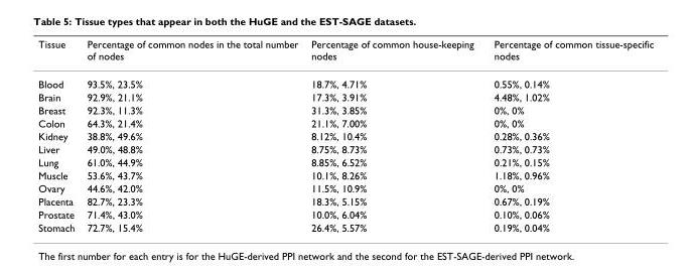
<table><thead><tr><td>Tissue</td><td>Percentage of common nodes in the total number of nodes</td><td>Percentage of common house-keeping nodes</td><td>Percentage of common tissue-specific nodes</td></tr></thead><tbody><tr><td>Blood</td><td>93.5%, 23.5%</td><td>18.7%, 4.71%</td><td>0.55%, 0.14%</td></tr><tr><td>Brain</td><td>92.9%, 21.1%</td><td>17.3%, 3.91%</td><td>4.48%, 1.02%</td></tr><tr><td>Breast</td><td>92.3%, 11.3%</td><td>31.3%, 3.85%</td><td>0%, 0%</td></tr><tr><td>Colon</td><td>64.3%, 21.4%</td><td>21.1%, 7.00%</td><td>0%, 0%</td></tr><tr><td>Kidney</td><td>38.8%, 49.6%</td><td>8.12%, 10.4%</td><td>0.28%, 0.36%</td></tr><tr><td>Liver</td><td>49.0%, 48.8%</td><td>8.75%, 8.73%</td><td>0.73%, 0.73%</td></tr><tr><td>Lung</td><td>61.0%, 44.9%</td><td>8.85%, 6.52%</td><td>0.21%, 0.15%</td></tr><tr><td>Muscle</td><td>53.6%, 43.7%</td><td>10.1%, 8.26%</td><td>1.18%, 0.96%</td></tr><tr><td>Ovary</td><td>44.6%, 42.0%</td><td>11.5%, 10.9%</td><td>0%, 0%</td></tr><tr><td>Placenta</td><td>82.7%, 23.3%</td><td>18.3%, 5.15%</td><td>0.67%, 0.19%</td></tr><tr><td>Prostate</td><td>71.4%, 43.0%</td><td>10.0%, 6.04%</td><td>0.10%, 0.06%</td></tr><tr><td>Stomach</td><td>72.7%, 15.4%</td><td>26.4%, 5.57%</td><td>0.19%, 0.04%</td></tr></tbody></table>